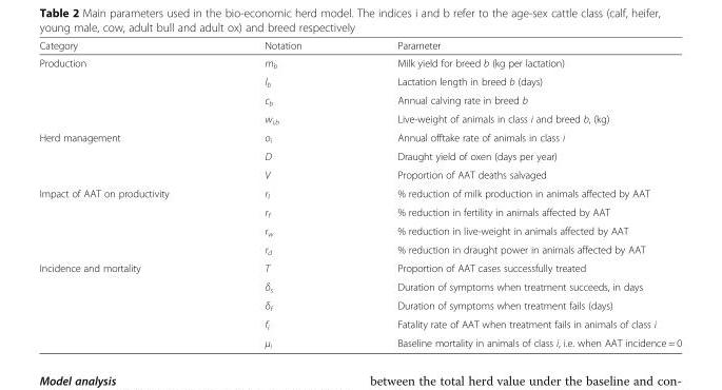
<table><thead><tr><td>Category</td><td>Notation</td><td>Parameter</td></tr></thead><tbody><tr><td rowspan="4">Production</td><td>m<sub>b</sub></td><td>Milk yield for breed b (kg per lactation)</td></tr><tr><td>l<sub>b</sub></td><td>Lactation length in breed b (days)</td></tr><tr><td>c<sub>b</sub></td><td>Annual calving rate in breed b</td></tr><tr><td>w<sub>i,b</sub></td><td>Live-weight of animals in class i and breed b, (kg)</td></tr><tr><td rowspan="3">Herd management</td><td>o<sub>i</sub></td><td>Annual offtake rate of animals in class i</td></tr><tr><td>D</td><td>Draught yield of oxen (days per year)</td></tr><tr><td>V</td><td>Proportion of AAT deaths salvaged</td></tr><tr><td rowspan="4">Impact of AAT on productivity</td><td>r<sub>l</sub></td><td>% reduction of milk production in animals affected by AAT</td></tr><tr><td>r<sub>f</sub></td><td>% reduction in fertility in animals affected by AAT</td></tr><tr><td>r<sub>w</sub></td><td>% reduction in live-weight in animals affected by AAT</td></tr><tr><td>r<sub>d</sub></td><td>% reduction in draught power in animals affected by AAT</td></tr><tr><td rowspan="5">Incidence and mortality</td><td>T</td><td>Proportion of AAT cases successfully treated</td></tr><tr><td>δ<sub>s</sub></td><td>Duration of symptoms when treatment succeeds, in days</td></tr><tr><td>δ<sub>f</sub></td><td>Duration of symptoms when treatment fails (days)</td></tr><tr><td>f<sub>i</sub></td><td>Fatality rate of AAT when treatment fails in animals of class i</td></tr><tr><td>μ<sub>i</sub></td><td>Baseline mortality in animals of class i, i.e. when AAT incidence = 0</td></tr></tbody></table>